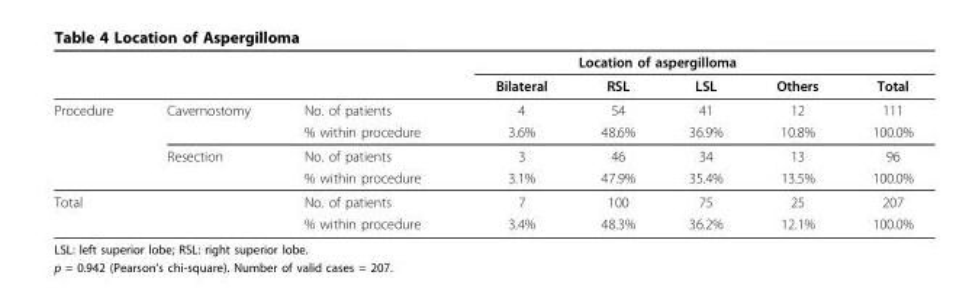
<table><thead><tr><td rowspan="2"></td><td rowspan="2"></td><td rowspan="2"></td><td colspan="4">Location of aspergilloma</td><td rowspan="2">Total</td></tr><tr><td>Bilateral</td><td>RSL</td><td>LSL</td><td>Others</td></tr></thead><tbody><tr><td rowspan="4">Procedure</td><td>Cavernostomy</td><td>No. of patients</td><td>4</td><td>54</td><td>41</td><td>12</td><td>111</td></tr><tr><td></td><td>% within procedure</td><td>3.6%</td><td>48.6%</td><td>36.9%</td><td>10.8%</td><td>100.0%</td></tr><tr><td>Resection</td><td>No. of patients</td><td>3</td><td>46</td><td>34</td><td>13</td><td>96</td></tr><tr><td></td><td>% within procedure</td><td>3.1%</td><td>47.9%</td><td>35.4%</td><td>13.5%</td><td>100.0%</td></tr><tr><td rowspan="2">Total</td><td></td><td>No. of patients</td><td>7</td><td>100</td><td>75</td><td>25</td><td>207</td></tr><tr><td></td><td>% within procedure</td><td>3.4%</td><td>48.3%</td><td>36.2%</td><td>12.1%</td><td>100.0%</td></tr></tbody></table>